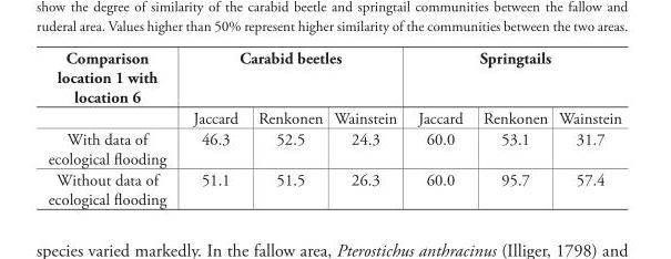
<table><thead><tr><td rowspan="2">Comparison location 1 with location 6</td><td colspan="3">Carabid beetles</td><td colspan="3">Springtails</td></tr><tr><td>Jaccard</td><td>Renkonen</td><td>Wainstein</td><td>Jaccard</td><td>Renkonen</td><td>Wainstein</td></tr></thead><tbody><tr><td>With data of ecological flooding</td><td>46.3</td><td>52.5</td><td>24.3</td><td>60.0</td><td>53.1</td><td>31.7</td></tr><tr><td>Without data of ecological flooding</td><td>51.1</td><td>51.5</td><td>26.3</td><td>60.0</td><td>95.7</td><td>57.4</td></tr></tbody></table>